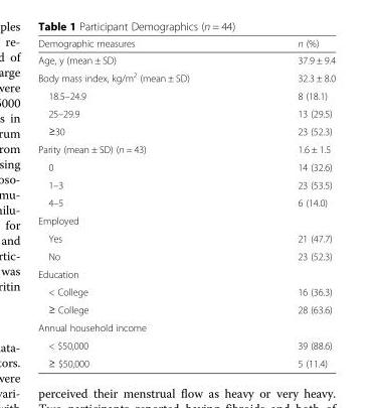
<table><thead><tr><td>Demographic measures</td><td>n (%)</td></tr></thead><tbody><tr><td>Age, y (mean ± SD)</td><td>37.9 ± 9.4</td></tr><tr><td>Body mass index, kg/m<sup>2</sup> (mean ± SD)</td><td>32.3 ± 8.0</td></tr><tr><td>18.5–24.9</td><td>8 (18.1)</td></tr><tr><td>25–29.9</td><td>13 (29.5)</td></tr><tr><td>≥30</td><td>23 (52.3)</td></tr><tr><td>Parity (mean ± SD) (n = 43)</td><td>1.6 ± 1.5</td></tr><tr><td>0</td><td>14 (32.6)</td></tr><tr><td>1–3</td><td>23 (53.5)</td></tr><tr><td>4–5</td><td>6 (14.0)</td></tr><tr><td colspan="2">Employed</td></tr><tr><td>Yes</td><td>21 (47.7)</td></tr><tr><td>No</td><td>23 (52.3)</td></tr><tr><td colspan="2">Education</td></tr><tr><td>&lt; College</td><td>16 (36.3)</td></tr><tr><td>≥ College</td><td>28 (63.6)</td></tr><tr><td colspan="2">Annual household income</td></tr><tr><td>&lt; $50,000</td><td>39 (88.6)</td></tr><tr><td>≥ $50,000</td><td>5 (11.4)</td></tr></tbody></table>